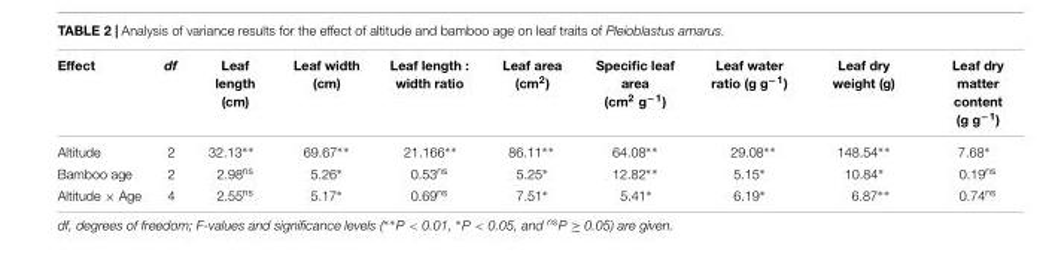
<table><thead><tr><td>Effect</td><td>df</td><td>Leaf length (cm)</td><td>Leaf width (cm)</td><td>Leaf length : width ratio</td><td>Leaf area (cm<sup>2</sup>)</td><td>Specific leaf area (cm<sup>2</sup> g<sup>−1</sup>)</td><td>Leaf water ratio (g g<sup>−1</sup>)</td><td>Leaf dry weight (g)</td><td>Leaf dry matter content (g g<sup>−1</sup>)</td></tr></thead><tbody><tr><td>Altitude</td><td>2</td><td>32.13∗∗</td><td>69.67∗∗</td><td>21.166∗∗</td><td>86.11∗∗</td><td>64.08∗∗</td><td>29.08∗∗</td><td>148.54∗∗</td><td>7.68∗</td></tr><tr><td>Bamboo age</td><td>2</td><td>2.98<sup>ns</sup></td><td>5.26∗</td><td>0.53<sup>ns</sup></td><td>5.25∗</td><td>12.82∗∗</td><td>5.15∗</td><td>10.84∗</td><td>0.19<sup>ns</sup></td></tr><tr><td>Altitude × Age</td><td>4</td><td>2.55<sup>ns</sup></td><td>5.17∗</td><td>0.69<sup>ns</sup></td><td>7.51∗</td><td>5.41∗</td><td>6.19∗</td><td>6.87∗∗</td><td>0.74<sup>ns</sup></td></tr></tbody></table>